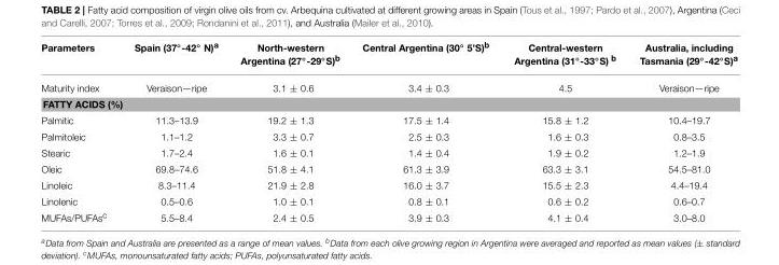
<table><thead><tr><td>Parameters</td><td>Spain (37◦-42◦ N)a</td><td>North-western Argentina (27◦-29◦S)b</td><td>Central Argentina (30◦ 5’S)b</td><td>Central-western Argentina (31◦-33◦S) b</td><td>Australia, including Tasmania (29◦-42◦S)a</td></tr></thead><tbody><tr><td>Maturity index</td><td>Veraison—ripe</td><td>3.1 ± 0.6</td><td>3.4 ± 0.3</td><td>4.5</td><td>Veraison—ripe</td></tr><tr><td colspan="6">FATTY ACIDS (%)</td></tr><tr><td>Palmitic</td><td>11.3–13.9</td><td>19.2 ± 1.3</td><td>17.5 ± 1.4</td><td>15.8 ± 1.2</td><td>10.4–19.7</td></tr><tr><td>Palmitoleic</td><td>1.1–1.2</td><td>3.3 ± 0.7</td><td>2.5 ± 0.3</td><td>1.6 ± 0.3</td><td>0.8–3.5</td></tr><tr><td>Stearic</td><td>1.7–2.4</td><td>1.6 ± 0.1</td><td>1.4 ± 0.4</td><td>1.9 ± 0.2</td><td>1.2–1.9</td></tr><tr><td>Oleic</td><td>69.8–74.6</td><td>51.8 ± 4.1</td><td>61.3 ± 3.9</td><td>63.3 ± 3.1</td><td>54.5–81.0</td></tr><tr><td>Linoleic</td><td>8.3–11.4</td><td>21.9 ± 2.8</td><td>16.0 ± 3.7</td><td>15.5 ± 2.3</td><td>4.4–19.4</td></tr><tr><td>Linolenic</td><td>0.5–0.6</td><td>1.0 ± 0.1</td><td>0.8 ± 0.1</td><td>0.6 ± 0.2</td><td>0.6–0.7</td></tr><tr><td>MUFAs/PUFAs<sup>c</sup></td><td>5.5–8.4</td><td>2.4 ± 0.5</td><td>3.9 ± 0.3</td><td>4.1 ± 0.4</td><td>3.0–8.0</td></tr></tbody></table>